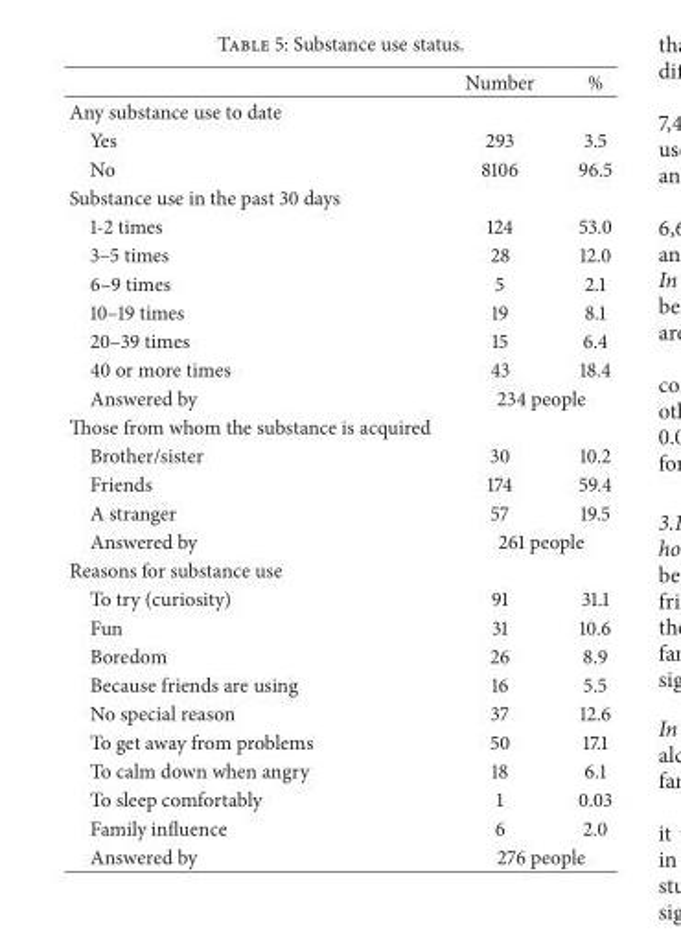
<table><thead><tr><td></td><td>Number</td><td>%</td></tr></thead><tbody><tr><td colspan="3">Any substance use to date</td></tr><tr><td>Yes</td><td>293</td><td>3.5</td></tr><tr><td>No</td><td>8106</td><td>96.5</td></tr><tr><td colspan="3">Substance use in the past 30 days</td></tr><tr><td>1-2 times</td><td>124</td><td>53.0</td></tr><tr><td>3–5 times</td><td>28</td><td>12.0</td></tr><tr><td>6–9 times</td><td>5</td><td>2.1</td></tr><tr><td>10–19 times</td><td>19</td><td>8.1</td></tr><tr><td>20–39 times</td><td>15</td><td>6.4</td></tr><tr><td>40 or more times</td><td>43</td><td>18.4</td></tr><tr><td>Answered by</td><td colspan="2">234 people</td></tr><tr><td colspan="3">Those from whom the substance is acquired</td></tr><tr><td>Brother/sister</td><td>30</td><td>10.2</td></tr><tr><td>Friends</td><td>174</td><td>59.4</td></tr><tr><td>A stranger</td><td>57</td><td>19.5</td></tr><tr><td>Answered by</td><td colspan="2">261 people</td></tr><tr><td colspan="3">Reasons for substance use</td></tr><tr><td>To try (curiosity)</td><td>91</td><td>31.1</td></tr><tr><td>Fun</td><td>31</td><td>10.6</td></tr><tr><td>Boredom</td><td>26</td><td>8.9</td></tr><tr><td>Because friends are using</td><td>16</td><td>5.5</td></tr><tr><td>No special reason</td><td>37</td><td>12.6</td></tr><tr><td>To get away from problems</td><td>50</td><td>17.1</td></tr><tr><td>To calm down when angry</td><td>18</td><td>6.1</td></tr><tr><td>To sleep comfortably</td><td>1</td><td>0.03</td></tr><tr><td>Family influence</td><td>6</td><td>2.0</td></tr><tr><td>Answered by</td><td colspan="2">276 people</td></tr></tbody></table>